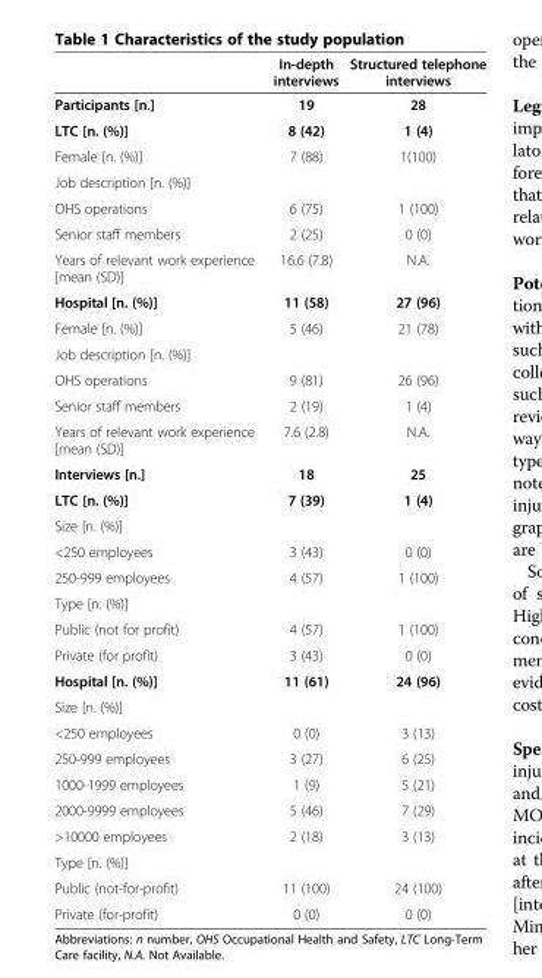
<table><thead><tr><td></td><td>In-depth interviews</td><td>Structured telephone interviews</td></tr></thead><tbody><tr><td>Participants [n.]</td><td>19</td><td>28</td></tr><tr><td>LTC [n. (%)]</td><td>8 (42)</td><td>1 (4)</td></tr><tr><td>Female [n. (%)]</td><td>7 (88)</td><td>1(100)</td></tr><tr><td colspan="3">Job description [n. (%)]</td></tr><tr><td>OHS operations</td><td>6 (75)</td><td>1 (100)</td></tr><tr><td>Senior staff members</td><td>2 (25)</td><td>0 (0)</td></tr><tr><td>Years of relevant work experience [mean (SD)]</td><td>16.6 (7.8)</td><td>N.A.</td></tr><tr><td>Hospital [n. (%)]</td><td>11 (58)</td><td>27 (96)</td></tr><tr><td>Female [n. (%)]</td><td>5 (46)</td><td>21 (78)</td></tr><tr><td colspan="3">Job description [n. (%)]</td></tr><tr><td>OHS operations</td><td>9 (81)</td><td>26 (96)</td></tr><tr><td>Senior staff members</td><td>2 (19)</td><td>1 (4)</td></tr><tr><td>Years of relevant work experience [mean (SD)]</td><td>7.6 (2.8)</td><td>N.A.</td></tr><tr><td>Interviews [n.]</td><td>18</td><td>25</td></tr><tr><td>LTC [n. (%)]</td><td>7 (39)</td><td>1 (4)</td></tr><tr><td colspan="3">Size [n. (%)]</td></tr><tr><td>&lt;250 employees</td><td>3 (43)</td><td>0 (0)</td></tr><tr><td>250-999 employees</td><td>4 (57)</td><td>1 (100)</td></tr><tr><td colspan="3">Type [n. (%)]</td></tr><tr><td>Public (not for profit)</td><td>4 (57)</td><td>1 (100)</td></tr><tr><td>Private (for profit)</td><td>3 (43)</td><td>0 (0)</td></tr><tr><td>Hospital [n. (%)]</td><td>11 (61)</td><td>24 (96)</td></tr><tr><td colspan="3">Size [n. (%)]</td></tr><tr><td>&lt;250 employees</td><td>0 (0)</td><td>3 (13)</td></tr><tr><td>250-999 employees</td><td>3 (27)</td><td>6 (25)</td></tr><tr><td>1000-1999 employees</td><td>1 (9)</td><td>5 (21)</td></tr><tr><td>2000-9999 employees</td><td>5 (46)</td><td>7 (29)</td></tr><tr><td>&gt;10000 employees</td><td>2 (18)</td><td>3 (13)</td></tr><tr><td colspan="3">Type [n. (%)]</td></tr><tr><td>Public (not-for-profit)</td><td>11 (100)</td><td>24 (100)</td></tr><tr><td>Private (for-profit)</td><td>0 (0)</td><td>0 (0)</td></tr></tbody></table>